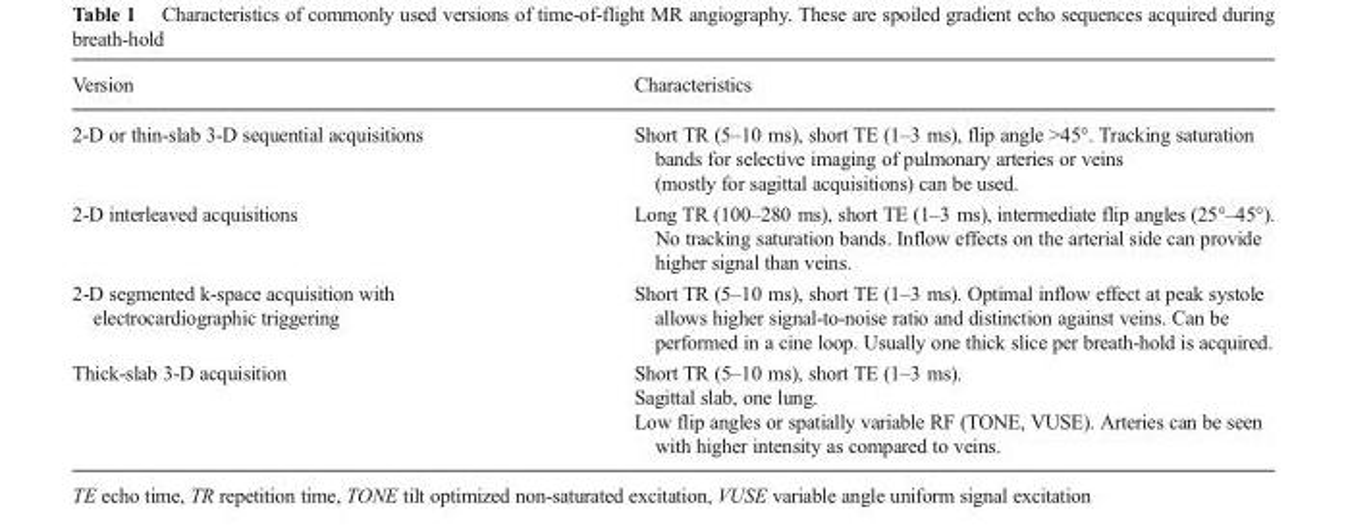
<table><thead><tr><td>Version</td><td>Characteristics</td></tr></thead><tbody><tr><td>2-D or thin-slab 3-D sequential acquisitions</td><td>Short TR (5–10 ms), short TE (1–3 ms), flip angle &gt;45°. Tracking saturation bands for selective imaging of pulmonary arteries or veins (mostly for sagittal acquisitions) can be used.</td></tr><tr><td>2-D interleaved acquisitions</td><td>Long TR (100–280 ms), short TE (1–3 ms), intermediate flip angles (25°–45°). No tracking saturation bands. Inflow effects on the arterial side can provide higher signal than veins.</td></tr><tr><td>2-D segmented k-space acquisition with electrocardiographic triggering</td><td>Short TR (5–10 ms), short TE (1–3 ms). Optimal inflow effect at peak systole allows higher signal-to-noise ratio and distinction against veins. Can be performed in a cine loop. Usually one thick slice per breath-hold is acquired.</td></tr><tr><td>Thick-slab 3-D acquisition</td><td>Short TR (5–10 ms), short TE (1–3 ms). Sagittal slab, one lung. Low flip angles or spatially variable RF (TONE, VUSE). Arteries can be seen with higher intensity as compared to veins.</td></tr></tbody></table>